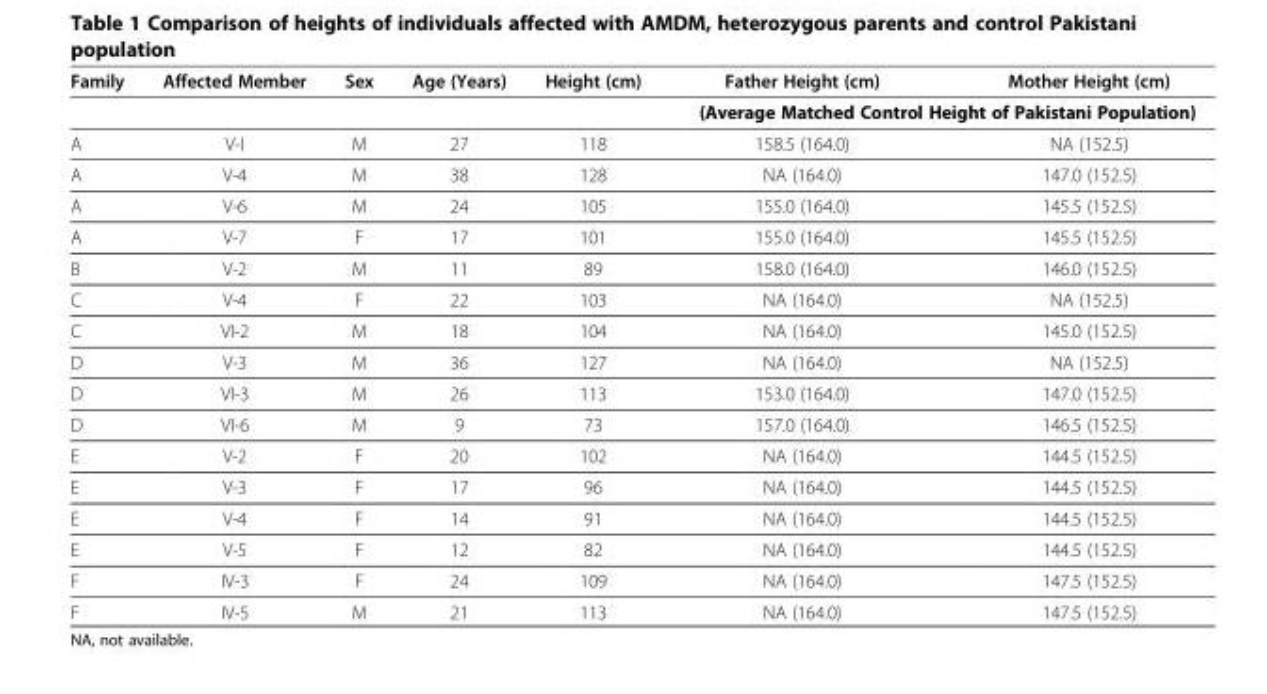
<table><thead><tr><td>Family</td><td>Affected Member</td><td>Sex</td><td>Age (Years)</td><td>Height (cm)</td><td>Father Height (cm)</td><td>Mother Height (cm)</td></tr></thead><tbody><tr><td></td><td></td><td></td><td></td><td></td><td colspan="2">(Average Matched Control Height of Pakistani Population)</td></tr><tr><td>A</td><td>V-I</td><td>M</td><td>27</td><td>118</td><td>158.5 (164.0)</td><td>NA (152.5)</td></tr><tr><td>A</td><td>V-4</td><td>M</td><td>38</td><td>128</td><td>NA (164.0)</td><td>147.0 (152.5)</td></tr><tr><td>A</td><td>V-6</td><td>M</td><td>24</td><td>105</td><td>155.0 (164.0)</td><td>145.5 (152.5)</td></tr><tr><td>A</td><td>V-7</td><td>F</td><td>17</td><td>101</td><td>155.0 (164.0)</td><td>145.5 (152.5)</td></tr><tr><td>B</td><td>V-2</td><td>M</td><td>11</td><td>89</td><td>158.0 (164.0)</td><td>146.0 (152.5)</td></tr><tr><td>C</td><td>V-4</td><td>F</td><td>22</td><td>103</td><td>NA (164.0)</td><td>NA (152.5)</td></tr><tr><td>C</td><td>VI-2</td><td>M</td><td>18</td><td>104</td><td>NA (164.0)</td><td>145.0 (152.5)</td></tr><tr><td>D</td><td>V-3</td><td>M</td><td>36</td><td>127</td><td>NA (164.0)</td><td>NA (152.5)</td></tr><tr><td>D</td><td>VI-3</td><td>M</td><td>26</td><td>113</td><td>153.0 (164.0)</td><td>147.0 (152.5)</td></tr><tr><td>D</td><td>VI-6</td><td>M</td><td>9</td><td>73</td><td>157.0 (164.0)</td><td>146.5 (152.5)</td></tr><tr><td>E</td><td>V-2</td><td>F</td><td>20</td><td>102</td><td>NA (164.0)</td><td>144.5 (152.5)</td></tr><tr><td>E</td><td>V-3</td><td>F</td><td>17</td><td>96</td><td>NA (164.0)</td><td>144.5 (152.5)</td></tr><tr><td>E</td><td>V-4</td><td>F</td><td>14</td><td>91</td><td>NA (164.0)</td><td>144.5 (152.5)</td></tr><tr><td>E</td><td>V-5</td><td>F</td><td>12</td><td>82</td><td>NA (164.0)</td><td>144.5 (152.5)</td></tr><tr><td>F</td><td>IV-3</td><td>F</td><td>24</td><td>109</td><td>NA (164.0)</td><td>147.5 (152.5)</td></tr><tr><td>F</td><td>IV-5</td><td>M</td><td>21</td><td>113</td><td>NA (164.0)</td><td>147.5 (152.5)</td></tr></tbody></table>